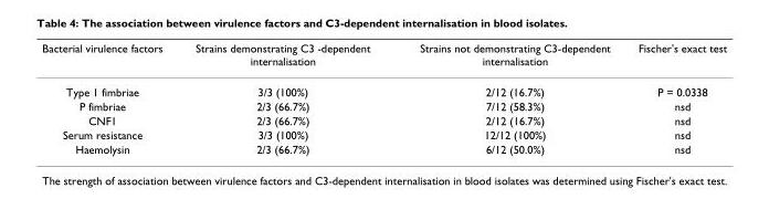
<table><thead><tr><td>Bacterial virulence factors</td><td>Strains demonstrating C3 -dependent internalisation</td><td>Strains not demonstrating C3-dependent internalisation</td><td>Fischer&#x27;s exact test</td></tr></thead><tbody><tr><td>Type 1 fimbriae</td><td>3/3 (100%)</td><td>2/12 (16.7%)</td><td>P = 0.0338</td></tr><tr><td>P fimbriae</td><td>2/3 (66.7%)</td><td>7/12 (58.3%)</td><td>nsd</td></tr><tr><td>CNF1</td><td>2/3 (66.7%)</td><td>2/12 (16.7%)</td><td>nsd</td></tr><tr><td>Serum resistance</td><td>3/3 (100%)</td><td>12/12 (100%)</td><td>nsd</td></tr><tr><td>Haemolysin</td><td>2/3 (66.7%)</td><td>6/12 (50.0%)</td><td>nsd</td></tr></tbody></table>